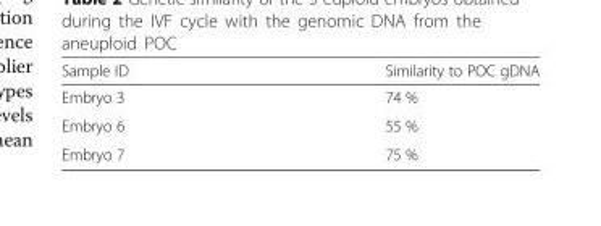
<table><thead><tr><td>Sample ID</td><td>Similarity to POC gDNA</td></tr></thead><tbody><tr><td>Embryo 3</td><td>74 %</td></tr><tr><td>Embryo 6</td><td>55 %</td></tr><tr><td>Embryo 7</td><td>75 %</td></tr></tbody></table>